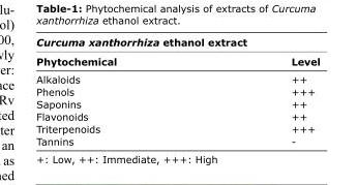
<table><thead><tr><td colspan="2">Curcuma xanthorrhiza ethanol extract</td></tr><tr><td>Phytochemical</td><td>Level</td></tr></thead><tbody><tr><td>Alkaloids</td><td>++</td></tr><tr><td>Phenols</td><td>+++</td></tr><tr><td>Saponins</td><td>++</td></tr><tr><td>Flavonoids</td><td>++</td></tr><tr><td>Triterpenoids</td><td>+++</td></tr><tr><td>Tannins</td><td>-</td></tr></tbody></table>